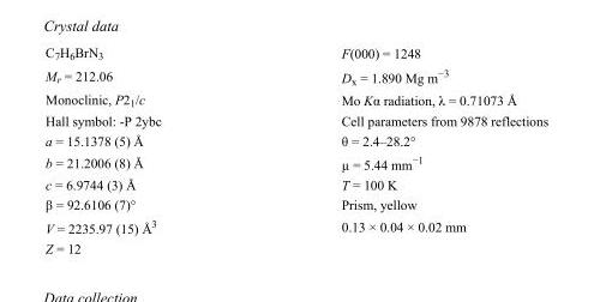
<table><tbody><tr><td>C<sub>7</sub>H<sub>6</sub>BrN<sub>3</sub></td><td>F(000) = 1248</td></tr><tr><td>M<sub>r</sub> = 212.06</td><td>D<sub>x</sub> = 1.890 Mg m<sup>−3</sup></td></tr><tr><td>Monoclinic, P2<sub>1</sub>/c</td><td>Mo Kα radiation, λ = 0.71073 Å</td></tr><tr><td>Hall symbol: -P 2ybc</td><td>Cell parameters from 9878 reflections</td></tr><tr><td>a = 15.1378 (5) Å</td><td>θ = 2.4–28.2°</td></tr><tr><td>b = 21.2006 (8) Å</td><td>µ = 5.44 mm<sup>−1</sup></td></tr><tr><td>c = 6.9744 (3) Å</td><td>T = 100 K</td></tr><tr><td>β = 92.6106 (7)°</td><td>Prism, yellow</td></tr><tr><td>V = 2235.97 (15) Å<sup>3</sup></td><td>0.13 × 0.04 × 0.02 mm</td></tr><tr><td>Z = 12</td><td></td></tr></tbody></table>